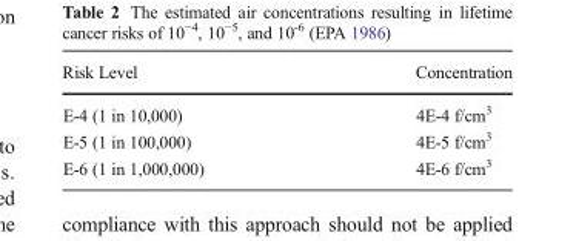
<table><thead><tr><td>Risk Level</td><td>Concentration</td></tr></thead><tbody><tr><td>E-4 (1 in 10,000)</td><td>4E-4 f/cm<sup>3</sup></td></tr><tr><td>E-5 (1 in 100,000)</td><td>4E-5 f/cm<sup>3</sup></td></tr><tr><td>E-6 (1 in 1,000,000)</td><td>4E-6 f/cm<sup>3</sup></td></tr></tbody></table>